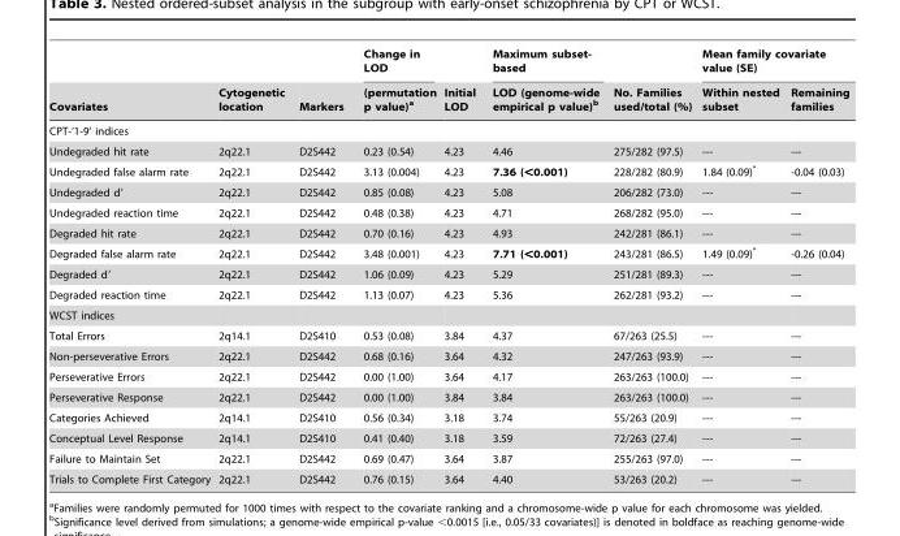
<table><thead><tr><td rowspan="2">Covariates</td><td rowspan="2">Cytogenetic location</td><td rowspan="2">Markers</td><td rowspan="2">Change in LOD (permutation p value)<sup>a</sup></td><td rowspan="2">Initial LOD</td><td rowspan="2">Maximum subset- based LOD (genome-wide empirical p value)<sup>b</sup></td><td rowspan="2">No. Families used/total (%)</td><td colspan="2">Mean family covariate value (SE)</td></tr><tr><td>Within nested subset</td><td>Remaining families</td></tr></thead><tbody><tr><td colspan="9">CPT-‘1-9’ indices</td></tr><tr><td>Undegraded hit rate</td><td>2q22.1</td><td>D2S442</td><td>0.23 (0.54)</td><td>4.23</td><td>4.46</td><td>275/282 (97.5)</td><td>---</td><td>---</td></tr><tr><td>Undegraded false alarm rate</td><td>2q22.1</td><td>D2S442</td><td>3.13 (0.004)</td><td>4.23</td><td>7.36 (&lt;0.001)</td><td>228/282 (80.9)</td><td>1.84 (0.09)*</td><td>-0.04 (0.03)</td></tr><tr><td>Undegraded d′</td><td>2q22.1</td><td>D2S442</td><td>0.85 (0.08)</td><td>4.23</td><td>5.08</td><td>206/282 (73.0)</td><td>---</td><td>---</td></tr><tr><td>Undegraded reaction time</td><td>2q22.1</td><td>D2S442</td><td>0.48 (0.38)</td><td>4.23</td><td>4.71</td><td>268/282 (95.0)</td><td>---</td><td>---</td></tr><tr><td>Degraded hit rate</td><td>2q22.1</td><td>D2S442</td><td>0.70 (0.16)</td><td>4.23</td><td>4.93</td><td>242/281 (86.1)</td><td>---</td><td>---</td></tr><tr><td>Degraded false alarm rate</td><td>2q22.1</td><td>D2S442</td><td>3.48 (0.001)</td><td>4.23</td><td>7.71 (&lt;0.001)</td><td>243/281 (86.5)</td><td>1.49 (0.09)*</td><td>-0.26 (0.04)</td></tr><tr><td>Degraded d′</td><td>2q22.1</td><td>D2S442</td><td>1.06 (0.09)</td><td>4.23</td><td>5.29</td><td>251/281 (89.3)</td><td>---</td><td>---</td></tr><tr><td>Degraded reaction time</td><td>2q22.1</td><td>D2S442</td><td>1.13 (0.07)</td><td>4.23</td><td>5.36</td><td>262/281 (93.2)</td><td>---</td><td>---</td></tr><tr><td colspan="9">WCST indices</td></tr><tr><td>Total Errors</td><td>2q14.1</td><td>D2S410</td><td>0.53 (0.08)</td><td>3.84</td><td>4.37</td><td>67/263 (25.5)</td><td>---</td><td>---</td></tr><tr><td>Non-perseverative Errors</td><td>2q22.1</td><td>D2S442</td><td>0.68 (0.16)</td><td>3.64</td><td>4.32</td><td>247/263 (93.9)</td><td>---</td><td>---</td></tr><tr><td>Perseverative Errors</td><td>2q22.1</td><td>D2S442</td><td>0.00 (1.00)</td><td>3.64</td><td>4.17</td><td>263/263 (100.0)</td><td>---</td><td>---</td></tr><tr><td>Perseverative Response</td><td>2q22.1</td><td>D2S442</td><td>0.00 (1.00)</td><td>3.84</td><td>3.84</td><td>263/263 (100.0)</td><td>---</td><td>---</td></tr><tr><td>Categories Achieved</td><td>2q14.1</td><td>D2S410</td><td>0.56 (0.34)</td><td>3.18</td><td>3.74</td><td>55/263 (20.9)</td><td>---</td><td>---</td></tr><tr><td>Conceptual Level Response</td><td>2q14.1</td><td>D2S410</td><td>0.41 (0.40)</td><td>3.18</td><td>3.59</td><td>72/263 (27.4)</td><td>---</td><td>---</td></tr><tr><td>Failure to Maintain Set</td><td>2q22.1</td><td>D2S442</td><td>0.69 (0.47)</td><td>3.64</td><td>3.87</td><td>255/263 (97.0)</td><td>---</td><td>---</td></tr><tr><td>Trials to Complete First Category</td><td>2q22.1</td><td>D2S442</td><td>0.76 (0.15)</td><td>3.64</td><td>4.40</td><td>53/263 (20.2)</td><td>---</td><td>---</td></tr></tbody></table>